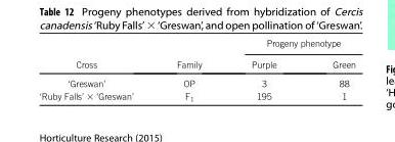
<table><thead><tr><td rowspan="2">Cross</td><td rowspan="2">Family</td><td colspan="2">Progeny phenotype</td></tr><tr><td>Purple</td><td>Green</td></tr></thead><tbody><tr><td>‘Greswan’</td><td>OP</td><td>3</td><td>88</td></tr><tr><td>‘Ruby Falls’ × ‘Greswan’</td><td>F<sub>1</sub></td><td>195</td><td>1</td></tr></tbody></table>